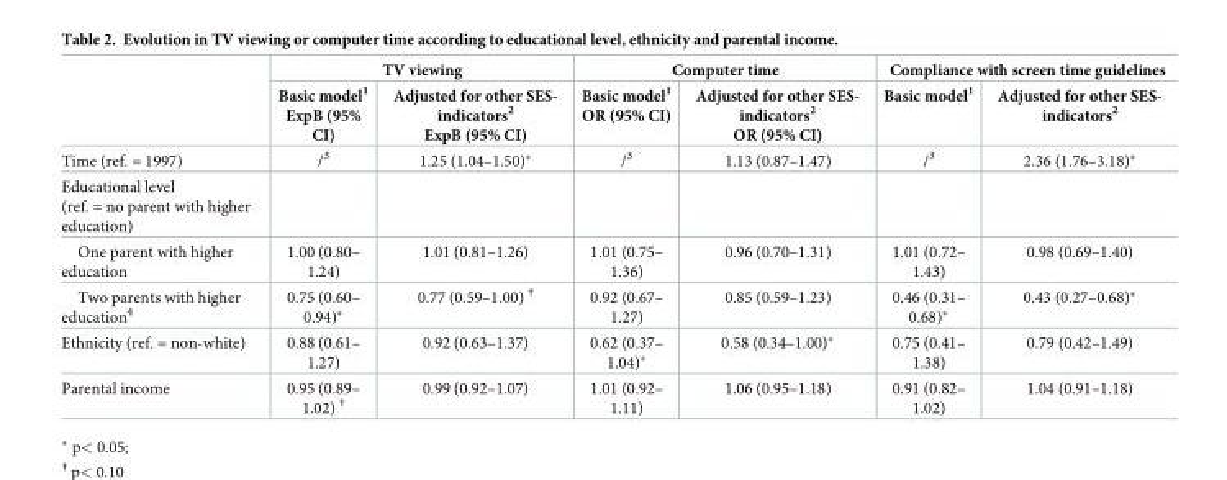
<table><thead><tr><td rowspan="2"></td><td colspan="2">TV viewing</td><td colspan="2">Computer time</td><td colspan="2">Compliance with screen time guidelines</td></tr><tr><td>Basic model<sup>1</sup> ExpB (95% CI)</td><td>Adjusted for other SES- indicators<sup>2</sup> ExpB (95% CI)</td><td>Basic model<sup>1</sup> OR (95% CI)</td><td>Adjusted for other SES- indicators<sup>2</sup> OR (95% CI)</td><td>Basic model<sup>1</sup></td><td>Adjusted for other SES- indicators<sup>2</sup></td></tr></thead><tbody><tr><td>Time (ref. = 1997)</td><td>/<sup>3</sup></td><td>1.25 (1.04–1.50)*</td><td>/<sup>3</sup></td><td>1.13 (0.87–1.47)</td><td>/<sup>3</sup></td><td>2.36 (1.76–3.18)*</td></tr><tr><td colspan="7">Educational level (ref. = no parent with higher education)</td></tr><tr><td>One parent with higher education</td><td>1.00 (0.80– 1.24)</td><td>1.01 (0.81–1.26)</td><td>1.01 (0.75– 1.36)</td><td>0.96 (0.70–1.31)</td><td>1.01 (0.72– 1.43)</td><td>0.98 (0.69–1.40)</td></tr><tr><td>Two parents with higher education<sup>4</sup></td><td>0.75 (0.60– 0.94)*</td><td>0.77 (0.59–1.00) <sup>†</sup></td><td>0.92 (0.67– 1.27)</td><td>0.85 (0.59–1.23)</td><td>0.46 (0.31– 0.68)*</td><td>0.43 (0.27–0.68)*</td></tr><tr><td>Ethnicity (ref. = non-white)</td><td>0.88 (0.61– 1.27)</td><td>0.92 (0.63–1.37)</td><td>0.62 (0.37– 1.04)*</td><td>0.58 (0.34–1.00)*</td><td>0.75 (0.41– 1.38)</td><td>0.79 (0.42–1.49)</td></tr><tr><td>Parental income</td><td>0.95 (0.89– 1.02) <sup>†</sup></td><td>0.99 (0.92–1.07)</td><td>1.01 (0.92– 1.11)</td><td>1.06 (0.95–1.18)</td><td>0.91 (0.82– 1.02)</td><td>1.04 (0.91–1.18)</td></tr></tbody></table>